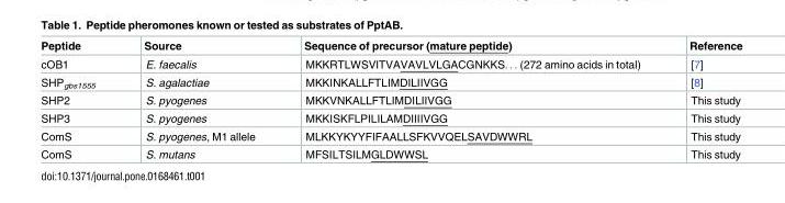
<table><thead><tr><td>Peptide</td><td>Source</td><td>Sequence of precursor (mature peptide)</td><td>Reference</td></tr></thead><tbody><tr><td>cOB1</td><td>E. faecalis</td><td>MKKRTLWSVITVAVAVLVLGACGNKKS. . . (272 amino acids in total)</td><td>[7]</td></tr><tr><td>SHP<sub>gbs1555</sub></td><td>S. agalactiae</td><td>MKKINKALLFTLIMDILIIVGG</td><td>[8]</td></tr><tr><td>SHP2</td><td>S. pyogenes</td><td>MKKVNKALLFTLIMDILIIVGG</td><td>This study</td></tr><tr><td>SHP3</td><td>S. pyogenes</td><td>MKKISKFLPILILAMDIIIIVGG</td><td>This study</td></tr><tr><td>ComS</td><td>S. pyogenes, M1 allele</td><td>MLKKYKYYFIFAALLSFKVVQELSAVDWWRL</td><td>This study</td></tr><tr><td>ComS</td><td>S. mutans</td><td>MFSILTSILMGLDWWSL</td><td>This study</td></tr></tbody></table>